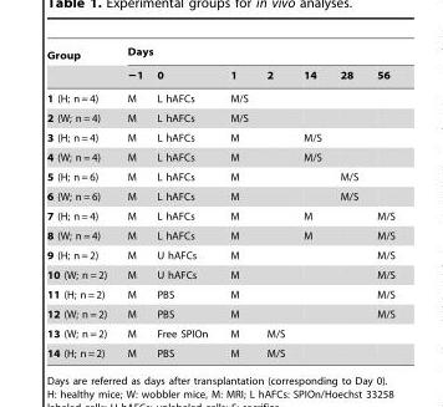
<table><thead><tr><td rowspan="2">Group</td><td colspan="7">Days</td></tr><tr><td>−1</td><td>0</td><td>1</td><td>2</td><td>14</td><td>28</td><td>56</td></tr></thead><tbody><tr><td>1 (H; n = 4)</td><td>M</td><td>L hAFCs</td><td>M/S</td><td></td><td></td><td></td><td></td></tr><tr><td>2 (W; n = 4)</td><td>M</td><td>L hAFCs</td><td>M/S</td><td></td><td></td><td></td><td></td></tr><tr><td>3 (H; n = 4)</td><td>M</td><td>L hAFCs</td><td>M</td><td></td><td>M/S</td><td></td><td></td></tr><tr><td>4 (W; n = 4)</td><td>M</td><td>L hAFCs</td><td>M</td><td></td><td>M/S</td><td></td><td></td></tr><tr><td>5 (H; n = 6)</td><td>M</td><td>L hAFCs</td><td>M</td><td></td><td></td><td>M/S</td><td></td></tr><tr><td>6 (W; n = 6)</td><td>M</td><td>L hAFCs</td><td>M</td><td></td><td></td><td>M/S</td><td></td></tr><tr><td>7 (H; n = 4)</td><td>M</td><td>L hAFCs</td><td>M</td><td></td><td>M</td><td></td><td>M/S</td></tr><tr><td>8 (W; n = 4)</td><td>M</td><td>L hAFCs</td><td>M</td><td></td><td>M</td><td></td><td>M/S</td></tr><tr><td>9 (H; n = 2)</td><td>M</td><td>U hAFCs</td><td>M</td><td></td><td></td><td></td><td>M/S</td></tr><tr><td>10 (W; n = 2)</td><td>M</td><td>U hAFCs</td><td>M</td><td></td><td></td><td></td><td>M/S</td></tr><tr><td>11 (H; n = 2)</td><td>M</td><td>PBS</td><td>M</td><td></td><td></td><td></td><td>M/S</td></tr><tr><td>12 (W; n = 2)</td><td>M</td><td>PBS</td><td>M</td><td></td><td></td><td></td><td>M/S</td></tr><tr><td>13 (W; n = 2)</td><td>M</td><td>Free SPIOn</td><td>M</td><td>M/S</td><td></td><td></td><td></td></tr><tr><td>14 (H; n = 2)</td><td>M</td><td>PBS</td><td>M</td><td>M/S</td><td></td><td></td><td></td></tr></tbody></table>